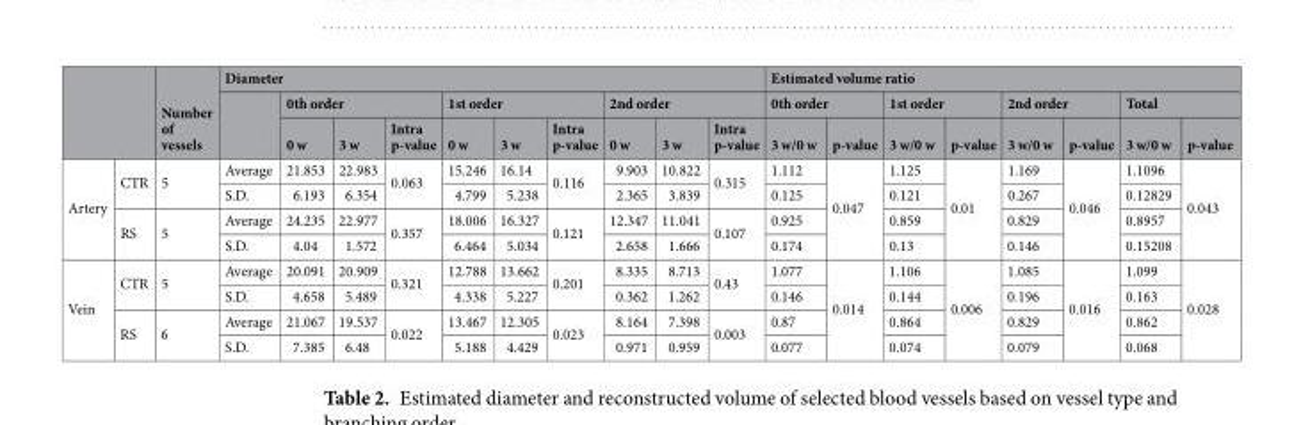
<table><thead><tr><td rowspan="3"></td><td rowspan="3"></td><td rowspan="3">Number of vessels</td><td colspan="10">Diameter</td><td colspan="8">Estimated volume ratio</td></tr><tr><td rowspan="2"></td><td colspan="3">0th order</td><td colspan="3">1st order</td><td colspan="3">2nd order</td><td colspan="2">0th order</td><td colspan="2">1st order</td><td colspan="2">2nd order</td><td colspan="2">Total</td></tr><tr><td>0 w</td><td>3 w</td><td>Intra p-value</td><td>0 w</td><td>3 w</td><td>Intra p-value</td><td>0 w</td><td>3 w</td><td>Intra p-value</td><td>3 w/0 w</td><td>p-value</td><td>3 w/0 w</td><td>p-value</td><td>3 w/0 w</td><td>p-value</td><td>3 w/0 w</td><td>p-value</td></tr></thead><tbody><tr><td rowspan="4">Artery</td><td rowspan="2">CTR</td><td rowspan="2">5</td><td>Average</td><td>21.853</td><td>22.983</td><td rowspan="2">0.063</td><td>15.246</td><td>16.14</td><td rowspan="2">0.116</td><td>9.903</td><td>10.822</td><td rowspan="2">0.315</td><td>1.112</td><td rowspan="4">0.047</td><td>1.125</td><td rowspan="4">0.01</td><td>1.169</td><td rowspan="4">0.046</td><td>1.1096</td><td rowspan="4">0.043</td></tr><tr><td>S.D.</td><td>6.193</td><td>6.354</td><td>4.799</td><td>5.238</td><td>2.365</td><td>3.839</td><td>0.125</td><td>0.121</td><td>0.267</td><td>0.12829</td></tr><tr><td rowspan="2">RS</td><td rowspan="2">5</td><td>Average</td><td>24.235</td><td>22.977</td><td rowspan="2">0.357</td><td>18.006</td><td>16.327</td><td rowspan="2">0.121</td><td>12.347</td><td>11.041</td><td rowspan="2">0.107</td><td>0.925</td><td>0.859</td><td>0.829</td><td>0.8957</td></tr><tr><td>S.D.</td><td>4.04</td><td>1.572</td><td>6.464</td><td>5.034</td><td>2.658</td><td>1.666</td><td>0.174</td><td>0.13</td><td>0.146</td><td>0.15208</td></tr><tr><td rowspan="4">Vein</td><td rowspan="2">CTR</td><td rowspan="2">5</td><td>Average</td><td>20.091</td><td>20.909</td><td rowspan="2">0.321</td><td>12.788</td><td>13.662</td><td rowspan="2">0.201</td><td>8.335</td><td>8.713</td><td rowspan="2">0.43</td><td>1.077</td><td rowspan="4">0.014</td><td>1.106</td><td rowspan="4">0.006</td><td>1.085</td><td rowspan="4">0.016</td><td>1.099</td><td rowspan="4">0.028</td></tr><tr><td>S.D.</td><td>4.658</td><td>5.489</td><td>4.338</td><td>5.227</td><td>0.362</td><td>1.262</td><td>0.146</td><td>0.144</td><td>0.196</td><td>0.163</td></tr><tr><td rowspan="2">RS</td><td rowspan="2">6</td><td>Average</td><td>21.067</td><td>19.537</td><td rowspan="2">0.022</td><td>13.467</td><td>12.305</td><td rowspan="2">0.023</td><td>8.164</td><td>7.398</td><td rowspan="2">0.003</td><td>0.87</td><td>0.864</td><td>0.829</td><td>0.862</td></tr><tr><td>S.D.</td><td>7.385</td><td>6.48</td><td>5.188</td><td>4.429</td><td>0.971</td><td>0.959</td><td>0.077</td><td>0.074</td><td>0.079</td><td>0.068</td></tr></tbody></table>